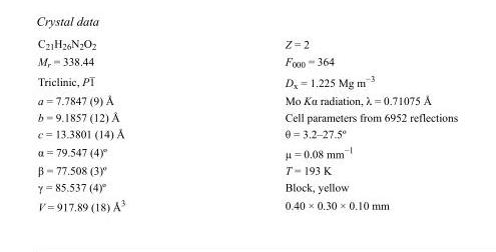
<table><tbody><tr><td>C<sub>21</sub>H<sub>26</sub>N<sub>2</sub>O<sub>2</sub></td><td>Z = 2</td></tr><tr><td>M<sub>r</sub> = 338.44</td><td>F000 = 364</td></tr><tr><td>Triclinic, P1</td><td>D<sub>x</sub> = 1.225 Mg m<sup>−3</sup></td></tr><tr><td>a = 7.7847 (9) Å</td><td>Mo Kα radiation, λ = 0.71075 Å</td></tr><tr><td>b = 9.1857 (12) Å</td><td>Cell parameters from 6952 reflections</td></tr><tr><td>c = 13.3801 (14) Å</td><td>θ = 3.2–27.5º</td></tr><tr><td>α = 79.547 (4)º</td><td>µ = 0.08 mm<sup>−1</sup></td></tr><tr><td>β = 77.508 (3)º</td><td>T = 193 K</td></tr><tr><td>γ = 85.537 (4)º</td><td>Block, yellow</td></tr><tr><td>V = 917.89 (18) Å<sup>3</sup></td><td>0.40 × 0.30 × 0.10 mm</td></tr></tbody></table>